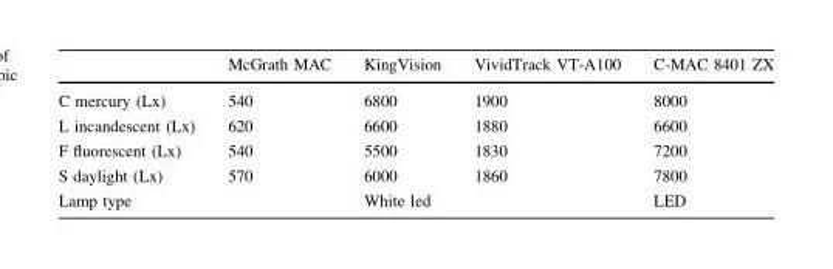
<table><thead><tr><td></td><td>McGrath MAC</td><td>KingVision</td><td>VividTrack VT-A100</td><td>C-MAC 8401 ZX</td></tr></thead><tbody><tr><td>C mercury (Lx)</td><td>540</td><td>6800</td><td>1900</td><td>8000</td></tr><tr><td>L incandescent (Lx)</td><td>620</td><td>6600</td><td>1880</td><td>6600</td></tr><tr><td>F fluorescent (Lx)</td><td>540</td><td>5500</td><td>1830</td><td>7200</td></tr><tr><td>S daylight (Lx)</td><td>570</td><td>6000</td><td>1860</td><td>7800</td></tr><tr><td>Lamp type</td><td></td><td>White led</td><td></td><td>LED</td></tr></tbody></table>